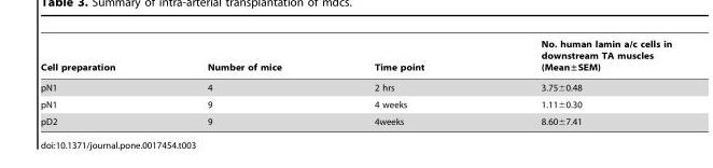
<table><thead><tr><td>Cell preparation</td><td>Number of mice</td><td>Time point</td><td>No. human lamin a/c cells in downstream TA muscles (Mean±SEM)</td></tr></thead><tbody><tr><td>pN1</td><td>4</td><td>2 hrs</td><td>3.75±0.48</td></tr><tr><td>pN1</td><td>9</td><td>4 weeks</td><td>1.11±0.30</td></tr><tr><td>pD2</td><td>9</td><td>4weeks</td><td>8.60±7.41</td></tr></tbody></table>